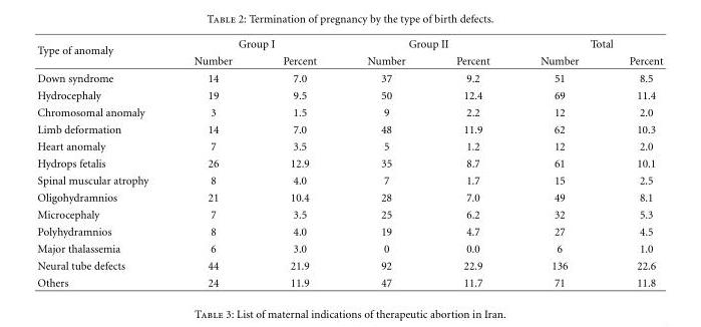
<table><thead><tr><td rowspan="2">Type of anomaly</td><td colspan="2">Group I</td><td colspan="2">Group II</td><td colspan="2">Total</td></tr><tr><td>Number</td><td>Percent</td><td>Number</td><td>Percent</td><td>Number</td><td>Percent</td></tr></thead><tbody><tr><td>Down syndrome</td><td>14</td><td>7.0</td><td>37</td><td>9.2</td><td>51</td><td>8.5</td></tr><tr><td>Hydrocephaly</td><td>19</td><td>9.5</td><td>50</td><td>12.4</td><td>69</td><td>11.4</td></tr><tr><td>Chromosomal anomaly</td><td>3</td><td>1.5</td><td>9</td><td>2.2</td><td>12</td><td>2.0</td></tr><tr><td>Limb deformation</td><td>14</td><td>7.0</td><td>48</td><td>11.9</td><td>62</td><td>10.3</td></tr><tr><td>Heart anomaly</td><td>7</td><td>3.5</td><td>5</td><td>1.2</td><td>12</td><td>2.0</td></tr><tr><td>Hydrops fetalis</td><td>26</td><td>12.9</td><td>35</td><td>8.7</td><td>61</td><td>10.1</td></tr><tr><td>Spinal muscular atrophy</td><td>8</td><td>4.0</td><td>7</td><td>1.7</td><td>15</td><td>2.5</td></tr><tr><td>Oligohydramnios</td><td>21</td><td>10.4</td><td>28</td><td>7.0</td><td>49</td><td>8.1</td></tr><tr><td>Microcephaly</td><td>7</td><td>3.5</td><td>25</td><td>6.2</td><td>32</td><td>5.3</td></tr><tr><td>Polyhydramnios</td><td>8</td><td>4.0</td><td>19</td><td>4.7</td><td>27</td><td>4.5</td></tr><tr><td>Major thalassemia</td><td>6</td><td>3.0</td><td>0</td><td>0.0</td><td>6</td><td>1.0</td></tr><tr><td>Neural tube defects</td><td>44</td><td>21.9</td><td>92</td><td>22.9</td><td>136</td><td>22.6</td></tr><tr><td>Others</td><td>24</td><td>11.9</td><td>47</td><td>11.7</td><td>71</td><td>11.8</td></tr></tbody></table>